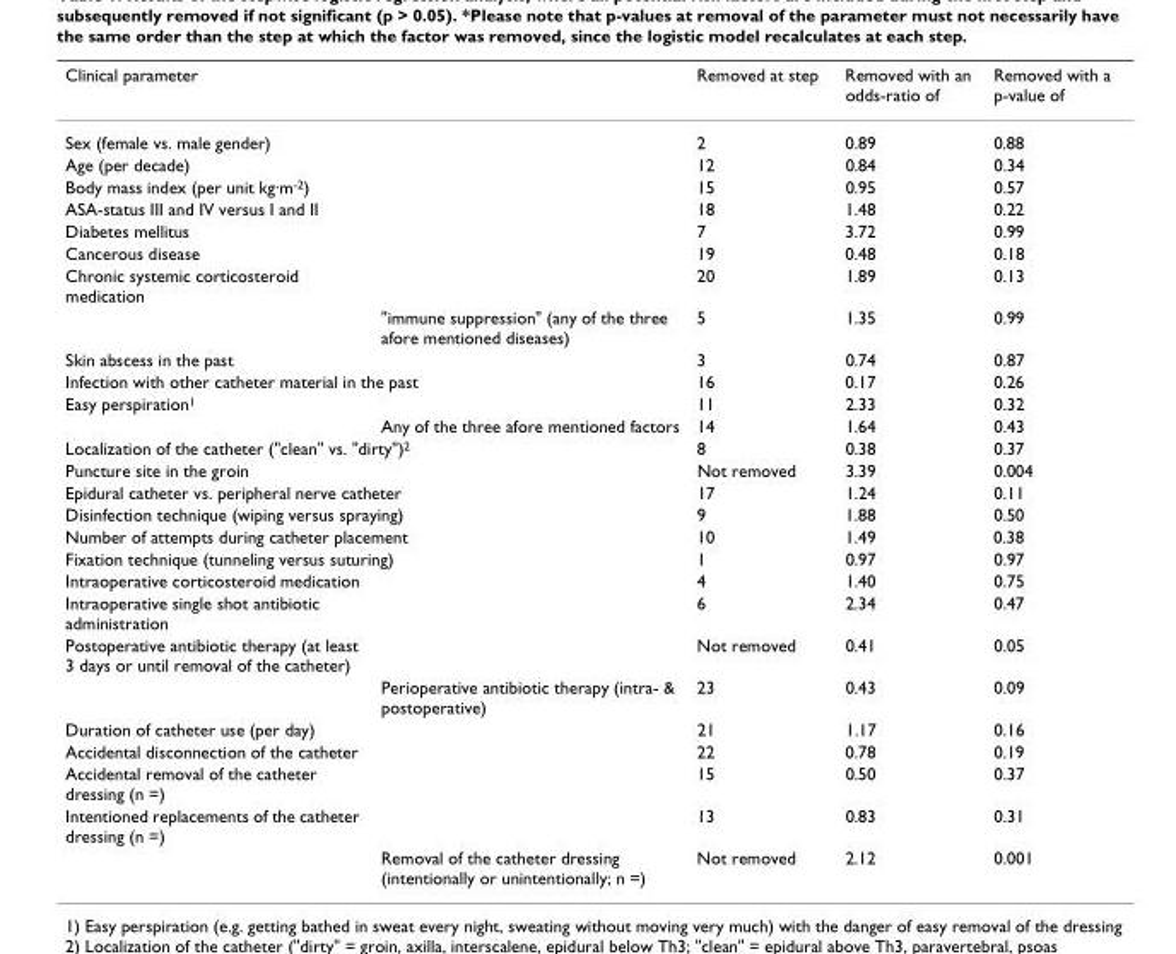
<table><thead><tr><td colspan="2">Clinical parameter</td><td>Removed at step</td><td>Removed with an odds-ratio of</td><td>Removed with a p-value of</td></tr></thead><tbody><tr><td colspan="2">Sex (female vs. male gender)</td><td>2</td><td>0.89</td><td>0.88</td></tr><tr><td colspan="2">Age (per decade)</td><td>12</td><td>0.84</td><td>0.34</td></tr><tr><td colspan="2">Body mass index (per unit kg·m<sup>-2</sup>)</td><td>15</td><td>0.95</td><td>0.57</td></tr><tr><td colspan="2">ASA-status III and IV versus I and II</td><td>18</td><td>1.48</td><td>0.22</td></tr><tr><td>Diabetes mellitus</td><td></td><td>7</td><td>3.72</td><td>0.99</td></tr><tr><td>Cancerous disease</td><td></td><td>19</td><td>0.48</td><td>0.18</td></tr><tr><td rowspan="2">Chronic systemic corticosteroid medication</td><td></td><td>20</td><td>1.89</td><td>0.13</td></tr><tr><td>&quot;immune suppression&quot; (any of the three afore mentioned diseases)</td><td>5</td><td>1.35</td><td>0.99</td></tr><tr><td colspan="2">Skin abscess in the past</td><td>3</td><td>0.74</td><td>0.87</td></tr><tr><td colspan="2">Infection with other catheter material in the past</td><td>16</td><td>0.17</td><td>0.26</td></tr><tr><td colspan="2">Easy perspiration<sup>1</sup></td><td>11</td><td>2.33</td><td>0.32</td></tr><tr><td></td><td>Any of the three afore mentioned factors</td><td>14</td><td>1.64</td><td>0.43</td></tr><tr><td colspan="2">Localization of the catheter (&quot;clean&quot; vs. &quot;dirty&quot;)<sup>2</sup></td><td>8</td><td>0.38</td><td>0.37</td></tr><tr><td colspan="2">Puncture site in the groin</td><td>Not removed</td><td>3.39</td><td>0.004</td></tr><tr><td colspan="2">Epidural catheter vs. peripheral nerve catheter</td><td>17</td><td>1.24</td><td>0.11</td></tr><tr><td colspan="2">Disinfection technique (wiping versus spraying)</td><td>9</td><td>1.88</td><td>0.50</td></tr><tr><td colspan="2">Number of attempts during catheter placement</td><td>10</td><td>1.49</td><td>0.38</td></tr><tr><td colspan="2">Fixation technique (tunneling versus suturing)</td><td>1</td><td>0.97</td><td>0.97</td></tr><tr><td colspan="2">Intraoperative corticosteroid medication</td><td>4</td><td>1.40</td><td>0.75</td></tr><tr><td>Intraoperative single shot antibiotic administration</td><td></td><td>6</td><td>2.34</td><td>0.47</td></tr><tr><td rowspan="2">Postoperative antibiotic therapy (at least 3 days or until removal of the catheter)</td><td></td><td>Not removed</td><td>0.41</td><td>0.05</td></tr><tr><td>Perioperative antibiotic therapy (intra- &amp; postoperative)</td><td>23</td><td>0.43</td><td>0.09</td></tr><tr><td colspan="2">Duration of catheter use (per day)</td><td>21</td><td>1.17</td><td>0.16</td></tr><tr><td colspan="2">Accidental disconnection of the catheter</td><td>22</td><td>0.78</td><td>0.19</td></tr><tr><td>Accidental removal of the catheter dressing (n =)</td><td></td><td>15</td><td>0.50</td><td>0.37</td></tr><tr><td rowspan="2">Intentioned replacements of the catheter dressing (n =)</td><td></td><td>13</td><td>0.83</td><td>0.31</td></tr><tr><td>Removal of the catheter dressing (intentionally or unintentionally; n =)</td><td>Not removed</td><td>2.12</td><td>0.001</td></tr></tbody></table>